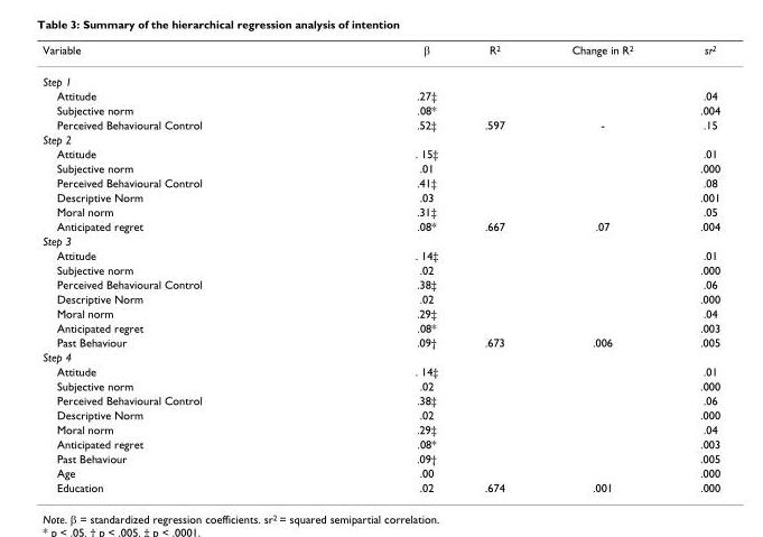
<table><thead><tr><td>Variable</td><td>β</td><td>R<sup>2</sup></td><td>Change in R<sup>2</sup></td><td>sr<sup>2</sup></td></tr></thead><tbody><tr><td colspan="5">Step 1</td></tr><tr><td>Attitude</td><td>.27‡</td><td></td><td></td><td>.04</td></tr><tr><td>Subjective norm</td><td>.08*</td><td></td><td></td><td>.004</td></tr><tr><td>Perceived Behavioural Control</td><td>.52‡</td><td>.597</td><td>-</td><td>.15</td></tr><tr><td colspan="5">Step 2</td></tr><tr><td>Attitude</td><td>. 15‡</td><td></td><td></td><td>.01</td></tr><tr><td>Subjective norm</td><td>.01</td><td></td><td></td><td>.000</td></tr><tr><td>Perceived Behavioural Control</td><td>.41‡</td><td></td><td></td><td>.08</td></tr><tr><td>Descriptive Norm</td><td>.03</td><td></td><td></td><td>.001</td></tr><tr><td>Moral norm</td><td>.31‡</td><td></td><td></td><td>.05</td></tr><tr><td>Anticipated regret</td><td>.08*</td><td>.667</td><td>.07</td><td>.004</td></tr><tr><td colspan="5">Step 3</td></tr><tr><td>Attitude</td><td>. 14‡</td><td></td><td></td><td>.01</td></tr><tr><td>Subjective norm</td><td>.02</td><td></td><td></td><td>.000</td></tr><tr><td>Perceived Behavioural Control</td><td>.38‡</td><td></td><td></td><td>.06</td></tr><tr><td>Descriptive Norm</td><td>.02</td><td></td><td></td><td>.000</td></tr><tr><td>Moral norm</td><td>.29‡</td><td></td><td></td><td>.04</td></tr><tr><td>Anticipated regret</td><td>.08*</td><td></td><td></td><td>.003</td></tr><tr><td>Past Behaviour</td><td>.09†</td><td>.673</td><td>.006</td><td>.005</td></tr><tr><td colspan="5">Step 4</td></tr><tr><td>Attitude</td><td>. 14‡</td><td></td><td></td><td>.01</td></tr><tr><td>Subjective norm</td><td>.02</td><td></td><td></td><td>.000</td></tr><tr><td>Perceived Behavioural Control</td><td>.38‡</td><td></td><td></td><td>.06</td></tr><tr><td>Descriptive Norm</td><td>.02</td><td></td><td></td><td>.000</td></tr><tr><td>Moral norm</td><td>.29‡</td><td></td><td></td><td>.04</td></tr><tr><td>Anticipated regret</td><td>.08*</td><td></td><td></td><td>.003</td></tr><tr><td>Past Behaviour</td><td>.09†</td><td></td><td></td><td>.005</td></tr><tr><td>Age</td><td>.00</td><td></td><td></td><td>.000</td></tr><tr><td>Education</td><td>.02</td><td>.674</td><td>.001</td><td>.000</td></tr></tbody></table>